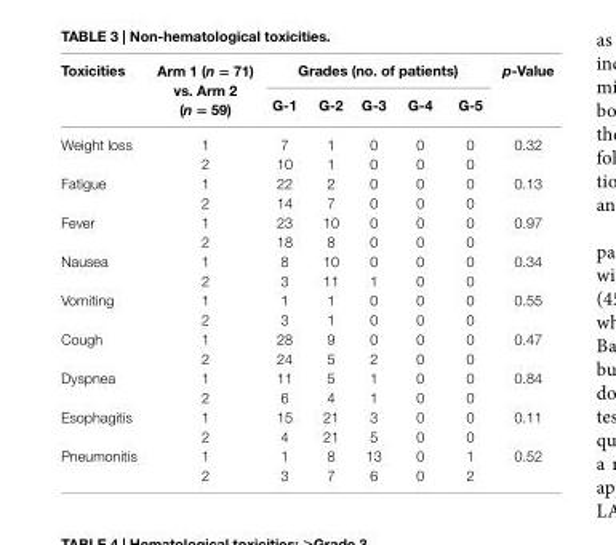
<table><thead><tr><td rowspan="2">Toxicities</td><td rowspan="2">arm 1 (n = 71) vs. arm 2 (n = 59)</td><td colspan="5">grades (no. of patients)</td><td rowspan="2">p-Value</td></tr><tr><td>g-1</td><td>g-2</td><td>g-3</td><td>g-4</td><td>g-5</td></tr></thead><tbody><tr><td rowspan="2">Weight loss</td><td>1</td><td>7</td><td>1</td><td>0</td><td>0</td><td>0</td><td rowspan="2">0.32</td></tr><tr><td>2</td><td>10</td><td>1</td><td>0</td><td>0</td><td>0</td></tr><tr><td rowspan="2">Fatigue</td><td>1</td><td>22</td><td>2</td><td>0</td><td>0</td><td>0</td><td rowspan="2">0.13</td></tr><tr><td>2</td><td>14</td><td>7</td><td>0</td><td>0</td><td>0</td></tr><tr><td rowspan="2">Fever</td><td>1</td><td>23</td><td>10</td><td>0</td><td>0</td><td>0</td><td rowspan="2">0.97</td></tr><tr><td>2</td><td>18</td><td>8</td><td>0</td><td>0</td><td>0</td></tr><tr><td rowspan="2">Nausea</td><td>1</td><td>8</td><td>10</td><td>0</td><td>0</td><td>0</td><td rowspan="2">0.34</td></tr><tr><td>2</td><td>3</td><td>11</td><td>1</td><td>0</td><td>0</td></tr><tr><td rowspan="2">Vomiting</td><td>1</td><td>1</td><td>1</td><td>0</td><td>0</td><td>0</td><td rowspan="2">0.55</td></tr><tr><td>2</td><td>3</td><td>1</td><td>0</td><td>0</td><td>0</td></tr><tr><td rowspan="2">Cough</td><td>1</td><td>28</td><td>9</td><td>0</td><td>0</td><td>0</td><td rowspan="2">0.47</td></tr><tr><td>2</td><td>24</td><td>5</td><td>2</td><td>0</td><td>0</td></tr><tr><td rowspan="2">Dyspnea</td><td>1</td><td>11</td><td>5</td><td>1</td><td>0</td><td>0</td><td rowspan="2">0.84</td></tr><tr><td>2</td><td>6</td><td>4</td><td>1</td><td>0</td><td>0</td></tr><tr><td rowspan="2">Esophagitis</td><td>1</td><td>15</td><td>21</td><td>3</td><td>0</td><td>0</td><td rowspan="2">0.11</td></tr><tr><td>2</td><td>4</td><td>21</td><td>5</td><td>0</td><td>0</td></tr><tr><td rowspan="2">Pneumonitis</td><td>1</td><td>1</td><td>8</td><td>13</td><td>0</td><td>1</td><td rowspan="2">0.52</td></tr><tr><td>2</td><td>3</td><td>7</td><td>6</td><td>0</td><td>2</td></tr></tbody></table>